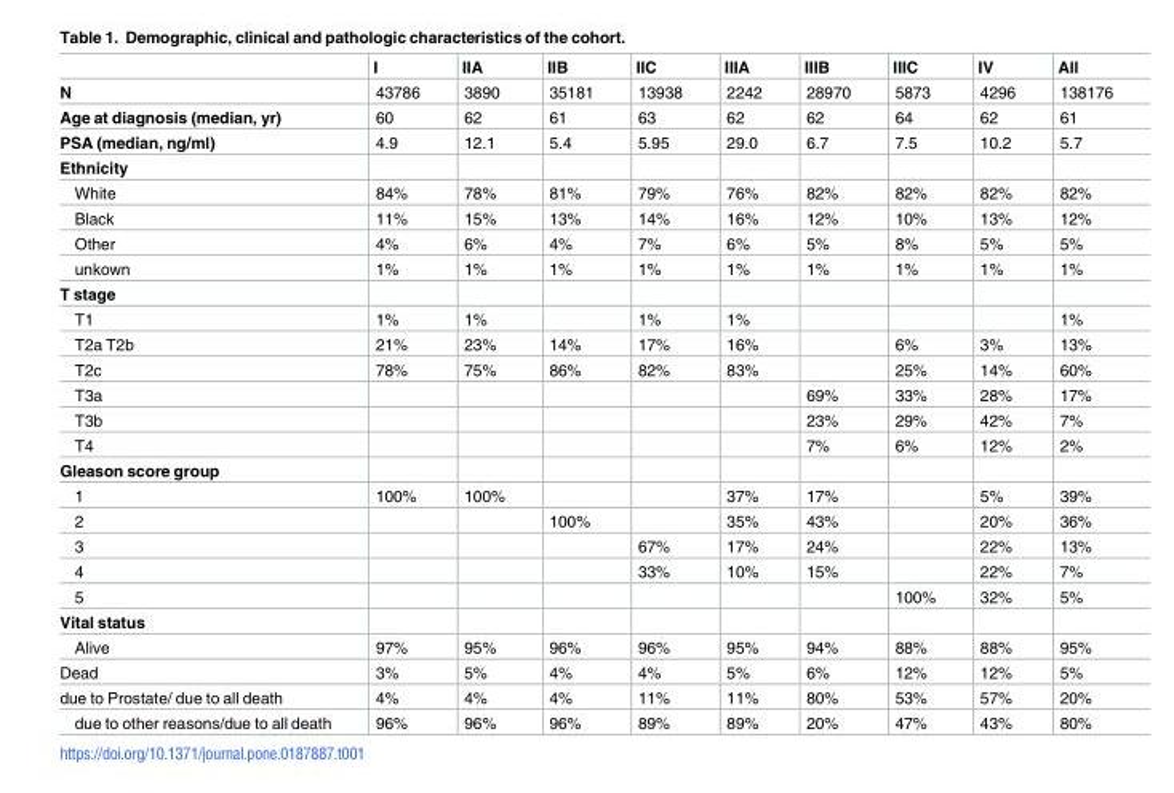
<table><thead><tr><td></td><td>I</td><td>IIA</td><td>IIB</td><td>IIC</td><td>IIIA</td><td>IIIB</td><td>IIIC</td><td>IV</td><td>All</td></tr></thead><tbody><tr><td>N</td><td>43786</td><td>3890</td><td>35181</td><td>13938</td><td>2242</td><td>28970</td><td>5873</td><td>4296</td><td>138176</td></tr><tr><td>Age at diagnosis (median, yr)</td><td>60</td><td>62</td><td>61</td><td>63</td><td>62</td><td>62</td><td>64</td><td>62</td><td>61</td></tr><tr><td>PSA (median, ng/ml)</td><td>4.9</td><td>12.1</td><td>5.4</td><td>5.95</td><td>29.0</td><td>6.7</td><td>7.5</td><td>10.2</td><td>5.7</td></tr><tr><td colspan="10">Ethnicity</td></tr><tr><td>White</td><td>84%</td><td>78%</td><td>81%</td><td>79%</td><td>76%</td><td>82%</td><td>82%</td><td>82%</td><td>82%</td></tr><tr><td>Black</td><td>11%</td><td>15%</td><td>13%</td><td>14%</td><td>16%</td><td>12%</td><td>10%</td><td>13%</td><td>12%</td></tr><tr><td>Other</td><td>4%</td><td>6%</td><td>4%</td><td>7%</td><td>6%</td><td>5%</td><td>8%</td><td>5%</td><td>5%</td></tr><tr><td>unkown</td><td>1%</td><td>1%</td><td>1%</td><td>1%</td><td>1%</td><td>1%</td><td>1%</td><td>1%</td><td>1%</td></tr><tr><td colspan="10">T stage</td></tr><tr><td>T1</td><td>1%</td><td>1%</td><td></td><td>1%</td><td>1%</td><td></td><td></td><td></td><td>1%</td></tr><tr><td>T2a T2b</td><td>21%</td><td>23%</td><td>14%</td><td>17%</td><td>16%</td><td></td><td>6%</td><td>3%</td><td>13%</td></tr><tr><td>T2c</td><td>78%</td><td>75%</td><td>86%</td><td>82%</td><td>83%</td><td></td><td>25%</td><td>14%</td><td>60%</td></tr><tr><td>T3a</td><td></td><td></td><td></td><td></td><td></td><td>69%</td><td>33%</td><td>28%</td><td>17%</td></tr><tr><td>T3b</td><td></td><td></td><td></td><td></td><td></td><td>23%</td><td>29%</td><td>42%</td><td>7%</td></tr><tr><td>T4</td><td></td><td></td><td></td><td></td><td></td><td>7%</td><td>6%</td><td>12%</td><td>2%</td></tr><tr><td colspan="10">Gleason score group</td></tr><tr><td>1</td><td>100%</td><td>100%</td><td></td><td></td><td>37%</td><td>17%</td><td></td><td>5%</td><td>39%</td></tr><tr><td>2</td><td></td><td></td><td>100%</td><td></td><td>35%</td><td>43%</td><td></td><td>20%</td><td>36%</td></tr><tr><td>3</td><td></td><td></td><td></td><td>67%</td><td>17%</td><td>24%</td><td></td><td>22%</td><td>13%</td></tr><tr><td>4</td><td></td><td></td><td></td><td>33%</td><td>10%</td><td>15%</td><td></td><td>22%</td><td>7%</td></tr><tr><td>5</td><td></td><td></td><td></td><td></td><td></td><td></td><td>100%</td><td>32%</td><td>5%</td></tr><tr><td colspan="10">Vital status</td></tr><tr><td>Alive</td><td>97%</td><td>95%</td><td>96%</td><td>96%</td><td>95%</td><td>94%</td><td>88%</td><td>88%</td><td>95%</td></tr><tr><td>Dead</td><td>3%</td><td>5%</td><td>4%</td><td>4%</td><td>5%</td><td>6%</td><td>12%</td><td>12%</td><td>5%</td></tr><tr><td>due to Prostate/ due to all death</td><td>4%</td><td>4%</td><td>4%</td><td>11%</td><td>11%</td><td>80%</td><td>53%</td><td>57%</td><td>20%</td></tr><tr><td>due to other reasons/due to all death</td><td>96%</td><td>96%</td><td>96%</td><td>89%</td><td>89%</td><td>20%</td><td>47%</td><td>43%</td><td>80%</td></tr></tbody></table>